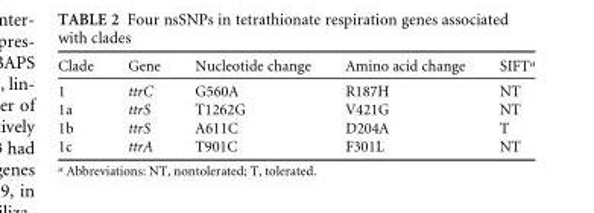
<table><thead><tr><td>Clade</td><td>Gene</td><td>Nucleotide change</td><td>Amino acid change</td><td>SIFT<sup>a</sup></td></tr></thead><tbody><tr><td>1</td><td>ttrC</td><td>G560A</td><td>R187H</td><td>NT</td></tr><tr><td>1a</td><td>ttrS</td><td>T1262G</td><td>V421G</td><td>NT</td></tr><tr><td>1b</td><td>ttrS</td><td>A611C</td><td>D204A</td><td>T</td></tr><tr><td>1c</td><td>ttrA</td><td>T901C</td><td>F301L</td><td>NT</td></tr></tbody></table>